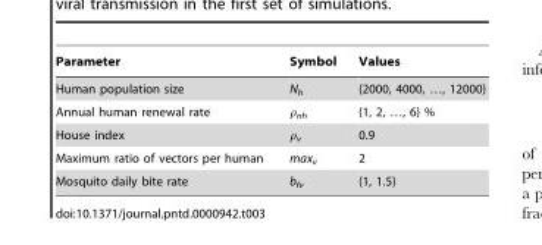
<table><thead><tr><td>Parameter</td><td>Symbol</td><td>Values</td></tr></thead><tbody><tr><td>Human population size</td><td>N<sub>h</sub></td><td>{2000, 4000, …, 12000}</td></tr><tr><td>Annual human renewal rate</td><td>ρ<sub>nh</sub></td><td>{1, 2, …, 6} %</td></tr><tr><td>House index</td><td>ρ<sub>v</sub></td><td>0.9</td></tr><tr><td>Maximum ratio of vectors per human</td><td>max<sub>v</sub></td><td>2</td></tr><tr><td>Mosquito daily bite rate</td><td>b<sub>fv</sub></td><td>{1, 1.5}</td></tr></tbody></table>